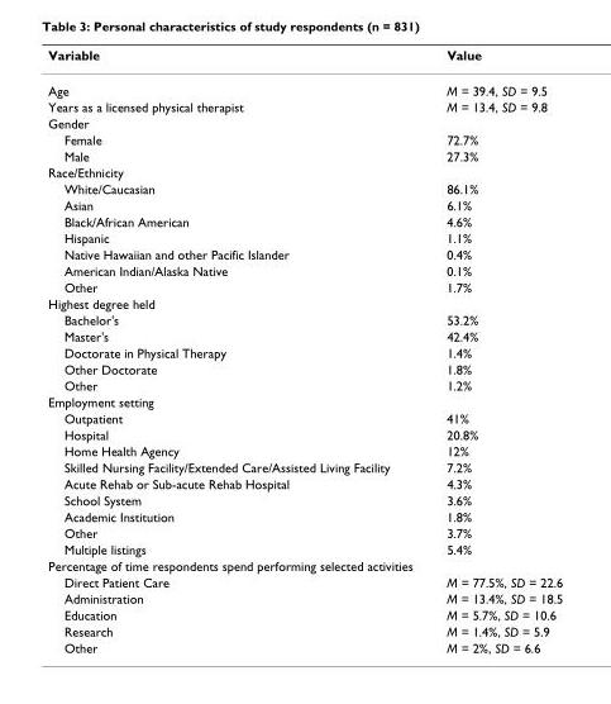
<table><thead><tr><td>Variable</td><td>Value</td></tr></thead><tbody><tr><td>Age</td><td>M = 39.4, SD = 9.5</td></tr><tr><td>Years as a licensed physical therapist</td><td>M = 13.4, SD = 9.8</td></tr><tr><td colspan="2">Gender</td></tr><tr><td>Female</td><td>72.7%</td></tr><tr><td>Male</td><td>27.3%</td></tr><tr><td colspan="2">Race/Ethnicity</td></tr><tr><td>White/Caucasian</td><td>86.1%</td></tr><tr><td>Asian</td><td>6.1%</td></tr><tr><td>Black/African American</td><td>4.6%</td></tr><tr><td>Hispanic</td><td>1.1%</td></tr><tr><td>Native Hawaiian and other Pacific Islander</td><td>0.4%</td></tr><tr><td>American Indian/Alaska Native</td><td>0.1%</td></tr><tr><td>Other</td><td>1.7%</td></tr><tr><td colspan="2">Highest degree held</td></tr><tr><td>Bachelor&#x27;s</td><td>53.2%</td></tr><tr><td>Master&#x27;s</td><td>42.4%</td></tr><tr><td>Doctorate in Physical Therapy</td><td>1.4%</td></tr><tr><td>Other Doctorate</td><td>1.8%</td></tr><tr><td>Other</td><td>1.2%</td></tr><tr><td colspan="2">Employment setting</td></tr><tr><td>Outpatient</td><td>41%</td></tr><tr><td>Hospital</td><td>20.8%</td></tr><tr><td>Home Health Agency</td><td>12%</td></tr><tr><td>Skilled Nursing Facility/Extended Care/Assisted Living Facility</td><td>7.2%</td></tr><tr><td>Acute Rehab or Sub-acute Rehab Hospital</td><td>4.3%</td></tr><tr><td>School System</td><td>3.6%</td></tr><tr><td>Academic Institution</td><td>1.8%</td></tr><tr><td>Other</td><td>3.7%</td></tr><tr><td>Multiple listings</td><td>5.4%</td></tr><tr><td colspan="2">Percentage of time respondents spend performing selected activities</td></tr><tr><td>Direct Patient Care</td><td>M = 77.5%, SD = 22.6</td></tr><tr><td>Administration</td><td>M = 13.4%, SD = 18.5</td></tr><tr><td>Education</td><td>M = 5.7%, SD = 10.6</td></tr><tr><td>Research</td><td>M = 1.4%, SD = 5.9</td></tr><tr><td>Other</td><td>M = 2%, SD = 6.6</td></tr></tbody></table>